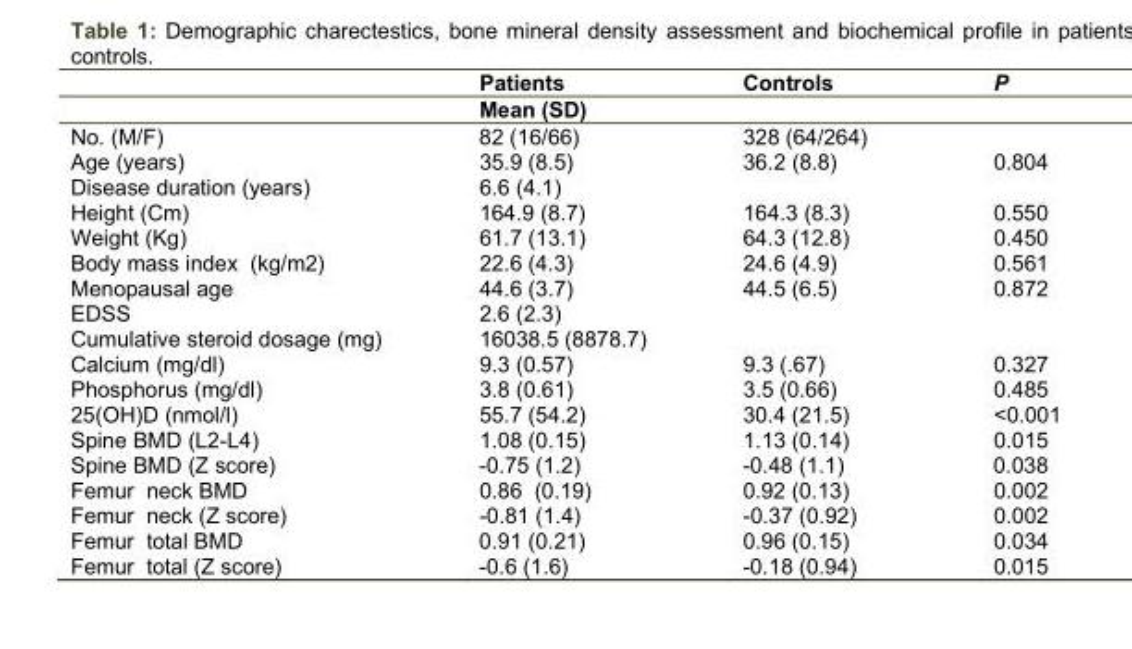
<table><thead><tr><td rowspan="2"></td><td rowspan="2">Patients Mean (SD)</td><td rowspan="2">Controls</td><td rowspan="2">P</td></tr><tr></tr></thead><tbody><tr><td>No. (M/F)</td><td>82 (16/66)</td><td>328 (64/264)</td><td></td></tr><tr><td>Age (years)</td><td>35.9 (8.5)</td><td>36.2 (8.8)</td><td>0.804</td></tr><tr><td>Disease duration (years)</td><td>6.6 (4.1)</td><td></td><td></td></tr><tr><td>Height (Cm)</td><td>164.9 (8.7)</td><td>164.3 (8.3)</td><td>0.550</td></tr><tr><td>Weight (Kg)</td><td>61.7 (13.1)</td><td>64.3 (12.8)</td><td>0.450</td></tr><tr><td>Body mass index (kg/m<sup>2</sup>)</td><td>22.6 (4.3)</td><td>24.6 (4.9)</td><td>0.561</td></tr><tr><td>Menopausal age</td><td>44.6 (3.7)</td><td>44.5 (6.5)</td><td>0.872</td></tr><tr><td>EDSS</td><td>2.6 (2.3)</td><td></td><td></td></tr><tr><td>Cumulative steroid dosage (mg)</td><td>16038.5 (8878.7)</td><td></td><td></td></tr><tr><td>Calcium (mg/dl)</td><td>9.3 (0.57)</td><td>9.3 (.67)</td><td>0.327</td></tr><tr><td>Phosphorus (mg/dl)</td><td>3.8 (0.61)</td><td>3.5 (0.66)</td><td>0.485</td></tr><tr><td>25(OH)D (nmol/l)</td><td>55.7 (54.2)</td><td>30.4 (21.5)</td><td>&lt;0.001</td></tr><tr><td>Spine BMD (L2-L4)</td><td>1.08 (0.15)</td><td>1.13 (0.14)</td><td>0.015</td></tr><tr><td>Spine BMD (Z score)</td><td>-0.75 (1.2)</td><td>-0.48 (1.1)</td><td>0.038</td></tr><tr><td>Femur neck BMD</td><td>0.86 (0.19)</td><td>0.92 (0.13)</td><td>0.002</td></tr><tr><td>Femur neck (Z score)</td><td>-0.81 (1.4)</td><td>-0.37 (0.92)</td><td>0.002</td></tr><tr><td>Femur total BMD</td><td>0.91 (0.21)</td><td>0.96 (0.15)</td><td>0.034</td></tr><tr><td>Femur total (Z score)</td><td>-0.6 (1.6)</td><td>-0.18 (0.94)</td><td>0.015</td></tr></tbody></table>